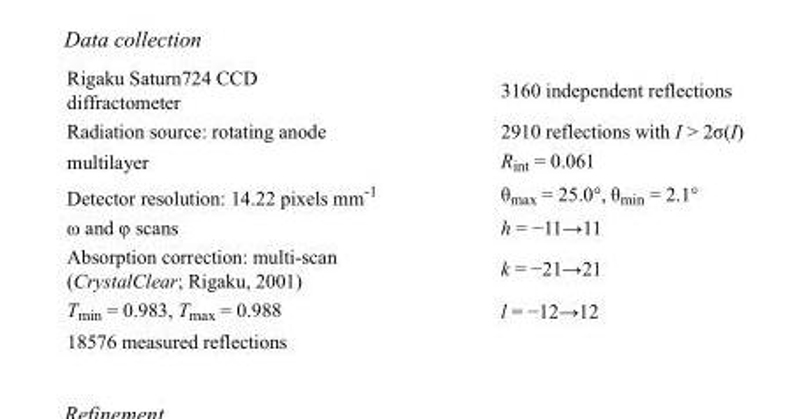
<table><tbody><tr><td>Rigaku Saturn724 CCD diffractometer</td><td>3160 independent reflections</td></tr><tr><td>Radiation source: rotating anode</td><td>2910 reflections with I &gt; 2σ(I)</td></tr><tr><td>multilayer</td><td>R<sub>int</sub> = 0.061</td></tr><tr><td>Detector resolution: 14.22 pixels mm<sup>-1</sup></td><td>θ<sub>max</sub> = 25.0°, θ<sub>min</sub> = 2.1°</td></tr><tr><td>ω and φ scans</td><td>h = −11→11</td></tr><tr><td>Absorption correction: multi-scan (CrystalClear; Rigaku, 2001)</td><td>k = −21→21</td></tr><tr><td>T<sub>min</sub> = 0.983, T<sub>max</sub> = 0.988</td><td>l = −12→12</td></tr><tr><td>18576 measured reflections</td><td></td></tr></tbody></table>